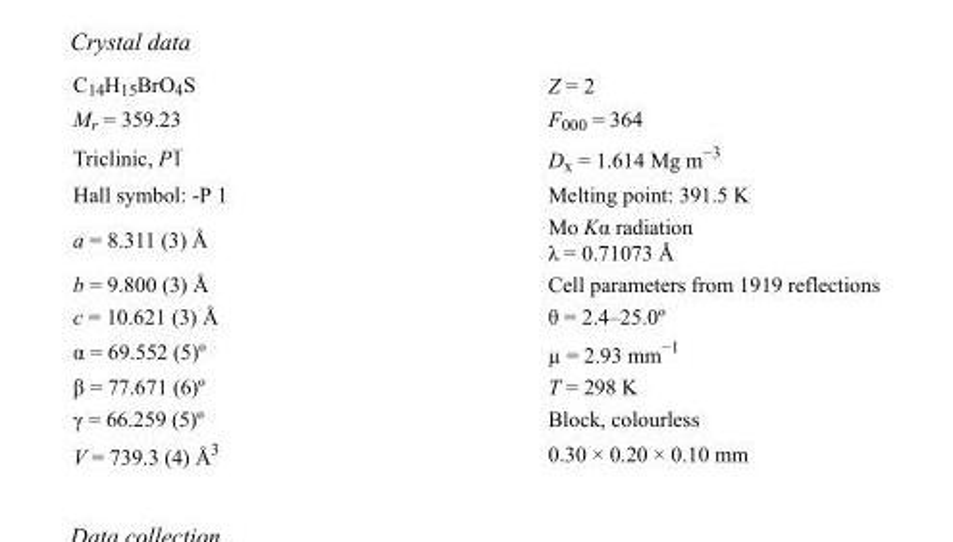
<table><tbody><tr><td>C<sub>14</sub>H<sub>15</sub>BrO<sub>4</sub>S</td><td>Z = 2</td></tr><tr><td>M<sub>r</sub> = 359.23</td><td>F000 = 364</td></tr><tr><td>Triclinic, P1</td><td>D<sub>x</sub> = 1.614 Mg m<sup>−3</sup></td></tr><tr><td>Hall symbol: -P 1</td><td>Melting point: 391.5 K</td></tr><tr><td>a = 8.311 (3) Å</td><td>Mo Kα radiation λ = 0.71073 Å</td></tr><tr><td>b = 9.800 (3) Å</td><td>Cell parameters from 1919 reflections</td></tr><tr><td>c = 10.621 (3) Å</td><td>θ = 2.4–25.0º</td></tr><tr><td>α = 69.552 (5)º</td><td>µ = 2.93 mm<sup>−1</sup></td></tr><tr><td>β = 77.671 (6)º</td><td>T = 298 K</td></tr><tr><td>γ = 66.259 (5)º</td><td>Block, colourless</td></tr><tr><td>V = 739.3 (4) Å<sup>3</sup></td><td>0.30 × 0.20 × 0.10 mm</td></tr></tbody></table>